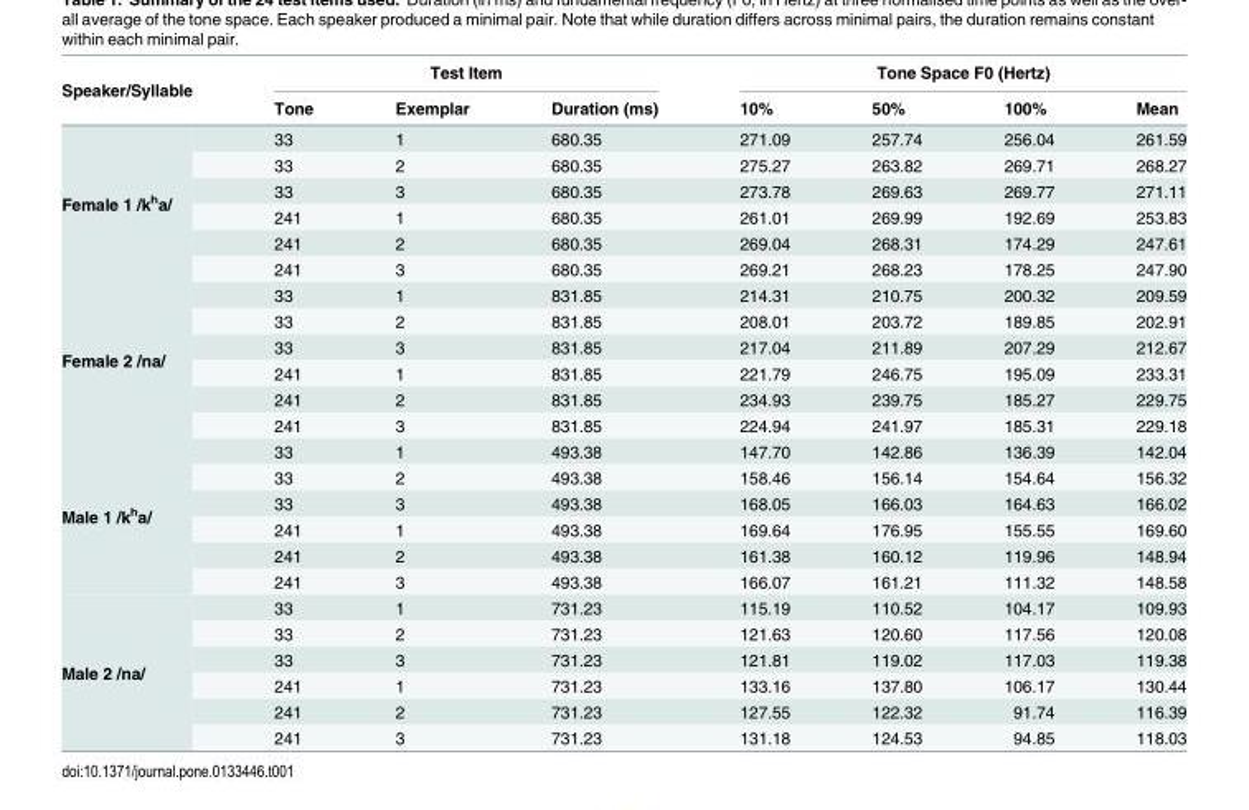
<table><thead><tr><td rowspan="2">Speaker/Syllable</td><td colspan="3">Test Item</td><td colspan="4">Tone Space F0 (Hertz)</td></tr><tr><td>Tone</td><td>Exemplar</td><td>Duration (ms)</td><td>10%</td><td>50%</td><td>100%</td><td>Mean</td></tr></thead><tbody><tr><td rowspan="6">Female 1 /k<sup>h</sup>a/</td><td>33</td><td>1</td><td>680.35</td><td>271.09</td><td>257.74</td><td>256.04</td><td>261.59</td></tr><tr><td>33</td><td>2</td><td>680.35</td><td>275.27</td><td>263.82</td><td>269.71</td><td>268.27</td></tr><tr><td>33</td><td>3</td><td>680.35</td><td>273.78</td><td>269.63</td><td>269.77</td><td>271.11</td></tr><tr><td>241</td><td>1</td><td>680.35</td><td>261.01</td><td>269.99</td><td>192.69</td><td>253.83</td></tr><tr><td>241</td><td>2</td><td>680.35</td><td>269.04</td><td>268.31</td><td>174.29</td><td>247.61</td></tr><tr><td>241</td><td>3</td><td>680.35</td><td>269.21</td><td>268.23</td><td>178.25</td><td>247.90</td></tr><tr><td rowspan="6">Female 2 /na/</td><td>33</td><td>1</td><td>831.85</td><td>214.31</td><td>210.75</td><td>200.32</td><td>209.59</td></tr><tr><td>33</td><td>2</td><td>831.85</td><td>208.01</td><td>203.72</td><td>189.85</td><td>202.91</td></tr><tr><td>33</td><td>3</td><td>831.85</td><td>217.04</td><td>211.89</td><td>207.29</td><td>212.67</td></tr><tr><td>241</td><td>1</td><td>831.85</td><td>221.79</td><td>246.75</td><td>195.09</td><td>233.31</td></tr><tr><td>241</td><td>2</td><td>831.85</td><td>234.93</td><td>239.75</td><td>185.27</td><td>229.75</td></tr><tr><td>241</td><td>3</td><td>831.85</td><td>224.94</td><td>241.97</td><td>185.31</td><td>229.18</td></tr><tr><td rowspan="6">Male 1 /k<sup>h</sup>a/</td><td>33</td><td>1</td><td>493.38</td><td>147.70</td><td>142.86</td><td>136.39</td><td>142.04</td></tr><tr><td>33</td><td>2</td><td>493.38</td><td>158.46</td><td>156.14</td><td>154.64</td><td>156.32</td></tr><tr><td>33</td><td>3</td><td>493.38</td><td>168.05</td><td>166.03</td><td>164.63</td><td>166.02</td></tr><tr><td>241</td><td>1</td><td>493.38</td><td>169.64</td><td>176.95</td><td>155.55</td><td>169.60</td></tr><tr><td>241</td><td>2</td><td>493.38</td><td>161.38</td><td>160.12</td><td>119.96</td><td>148.94</td></tr><tr><td>241</td><td>3</td><td>493.38</td><td>166.07</td><td>161.21</td><td>111.32</td><td>148.58</td></tr><tr><td rowspan="6">Male 2 /na/</td><td>33</td><td>1</td><td>731.23</td><td>115.19</td><td>110.52</td><td>104.17</td><td>109.93</td></tr><tr><td>33</td><td>2</td><td>731.23</td><td>121.63</td><td>120.60</td><td>117.56</td><td>120.08</td></tr><tr><td>33</td><td>3</td><td>731.23</td><td>121.81</td><td>119.02</td><td>117.03</td><td>119.38</td></tr><tr><td>241</td><td>1</td><td>731.23</td><td>133.16</td><td>137.80</td><td>106.17</td><td>130.44</td></tr><tr><td>241</td><td>2</td><td>731.23</td><td>127.55</td><td>122.32</td><td>91.74</td><td>116.39</td></tr><tr><td>241</td><td>3</td><td>731.23</td><td>131.18</td><td>124.53</td><td>94.85</td><td>118.03</td></tr></tbody></table>